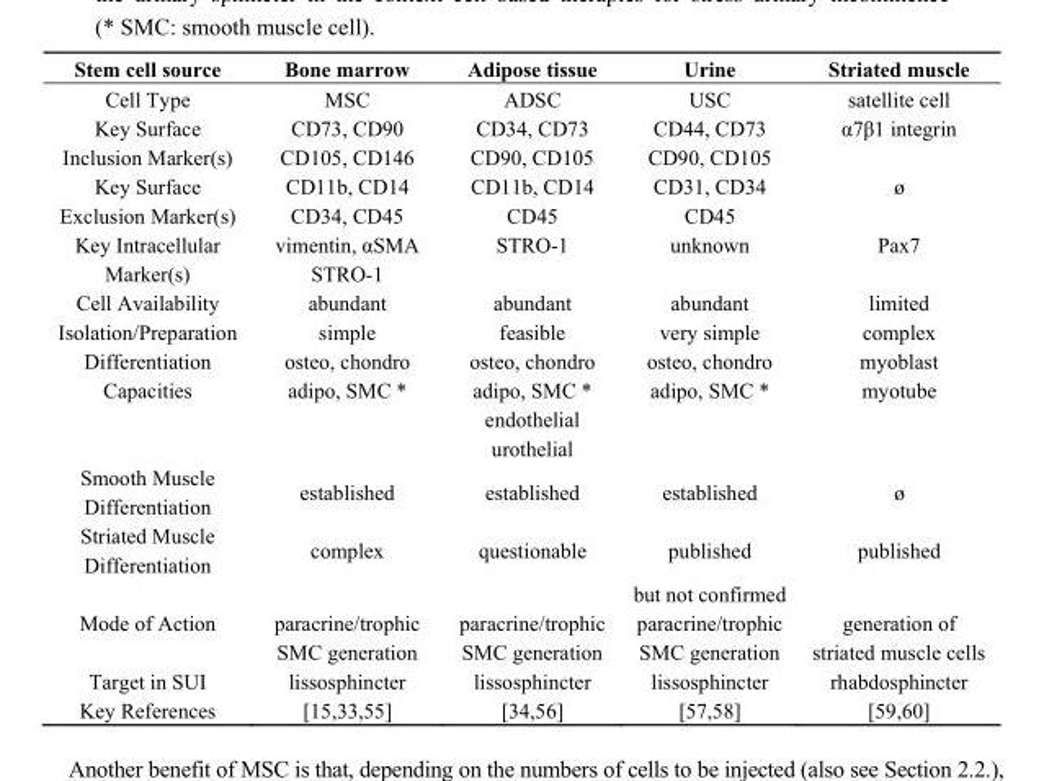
<table><thead><tr><td>Stem cell source</td><td>Bone marrow</td><td>Adipose tissue</td><td>Urine</td><td>Striated muscle</td></tr></thead><tbody><tr><td>Cell Type</td><td>MSC</td><td>ADSC</td><td>USC</td><td>satellite cell</td></tr><tr><td>Key Surface</td><td>CD73, CD90</td><td>CD34, CD73</td><td>CD44, CD73</td><td>α7β1 integrin</td></tr><tr><td>Inclusion Marker(s)</td><td>CD105, CD146</td><td>CD90, CD105</td><td>CD90, CD105</td><td></td></tr><tr><td>Key Surface</td><td>CD11b, CD14</td><td>CD11b, CD14</td><td>CD31, CD34</td><td>ø</td></tr><tr><td>Exclusion Marker(s)</td><td>CD34, CD45</td><td>CD45</td><td>CD45</td><td></td></tr><tr><td>Key Intracellular</td><td>vimentin, αSMA</td><td>STRO-1</td><td>unknown</td><td>Pax7</td></tr><tr><td>Marker(s)</td><td>STRO-1</td><td></td><td></td><td></td></tr><tr><td>Cell Availability</td><td>abundant</td><td>abundant</td><td>abundant</td><td>limited</td></tr><tr><td>Isolation/Preparation</td><td>simple</td><td>feasible</td><td>very simple</td><td>complex</td></tr><tr><td>Differentiation</td><td>osteo, chondro</td><td>osteo, chondro</td><td>osteo, chondro</td><td>myoblast</td></tr><tr><td rowspan="3">Capacities</td><td>adipo, SMC *</td><td>adipo, SMC *</td><td>adipo, SMC *</td><td>myotube</td></tr><tr><td></td><td>endothelial</td><td></td><td></td></tr><tr><td></td><td>urothelial</td><td></td><td></td></tr><tr><td>Smooth Muscle Differentiation</td><td>established</td><td>established</td><td>established</td><td>ø</td></tr><tr><td rowspan="2">Striated Muscle Differentiation</td><td>complex</td><td>questionable</td><td>published</td><td>published</td></tr><tr><td></td><td></td><td>but not confirmed</td><td></td></tr><tr><td rowspan="2">Mode of Action</td><td>paracrine/trophic</td><td>paracrine/trophic</td><td>paracrine/trophic</td><td>generation of</td></tr><tr><td>SMC generation</td><td>SMC generation</td><td>SMC generation</td><td>striated muscle cells</td></tr><tr><td>Target in SUI</td><td>lissosphincter</td><td>lissosphincter</td><td>lissosphincter</td><td>rhabdosphincter</td></tr><tr><td>Key References</td><td>[15,33,55]</td><td>[34,56]</td><td>[57,58]</td><td>[59,60]</td></tr></tbody></table>